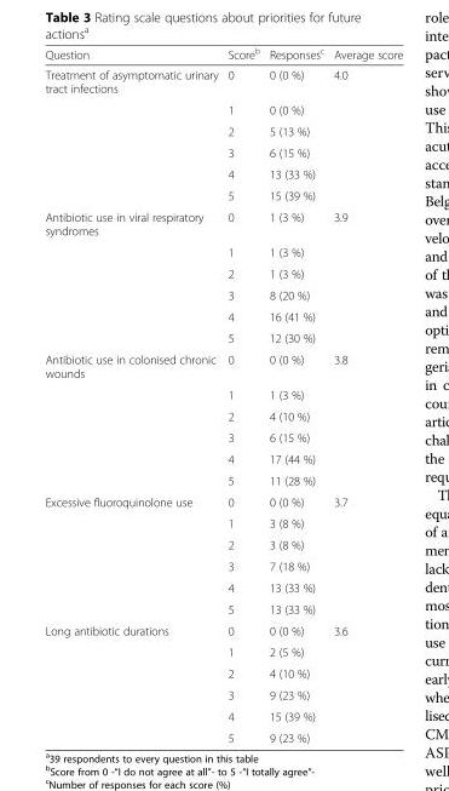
<table><thead><tr><td>Question</td><td>Score<sup>b</sup></td><td>Responses<sup>c</sup></td><td>Average score</td></tr></thead><tbody><tr><td rowspan="6">Treatment of asymptomatic urinary tract infections</td><td>0</td><td>0 (0 %)</td><td>4.0</td></tr><tr><td>1</td><td>0 (0 %)</td><td></td></tr><tr><td>2</td><td>5 (13 %)</td><td></td></tr><tr><td>3</td><td>6 (15 %)</td><td></td></tr><tr><td>4</td><td>13 (33 %)</td><td></td></tr><tr><td>5</td><td>15 (39 %)</td><td></td></tr><tr><td rowspan="6">Antibiotic use in viral respiratory syndromes</td><td>0</td><td>1 (3 %)</td><td>3.9</td></tr><tr><td>1</td><td>1 (3 %)</td><td></td></tr><tr><td>2</td><td>1 (3 %)</td><td></td></tr><tr><td>3</td><td>8 (20 %)</td><td></td></tr><tr><td>4</td><td>16 (41 %)</td><td></td></tr><tr><td>5</td><td>12 (30 %)</td><td></td></tr><tr><td rowspan="6">Antibiotic use in colonised chronic wounds</td><td>0</td><td>0 (0 %)</td><td>3.8</td></tr><tr><td>1</td><td>1 (3 %)</td><td></td></tr><tr><td>2</td><td>4 (10 %)</td><td></td></tr><tr><td>3</td><td>6 (15 %)</td><td></td></tr><tr><td>4</td><td>17 (44 %)</td><td></td></tr><tr><td>5</td><td>11 (28 %)</td><td></td></tr><tr><td rowspan="6">Excessive fluoroquinolone use</td><td>0</td><td>0 (0 %)</td><td>3.7</td></tr><tr><td>1</td><td>3 (8 %)</td><td></td></tr><tr><td>2</td><td>3 (8 %)</td><td></td></tr><tr><td>3</td><td>7 (18 %)</td><td></td></tr><tr><td>4</td><td>13 (33 %)</td><td></td></tr><tr><td>5</td><td>13 (33 %)</td><td></td></tr><tr><td rowspan="6">Long antibiotic durations</td><td>0</td><td>0 (0 %)</td><td>3.6</td></tr><tr><td>1</td><td>2 (5 %)</td><td></td></tr><tr><td>2</td><td>4 (10 %)</td><td></td></tr><tr><td>3</td><td>9 (23 %)</td><td></td></tr><tr><td>4</td><td>15 (39 %)</td><td></td></tr><tr><td>5</td><td>9 (23 %)</td><td></td></tr></tbody></table>